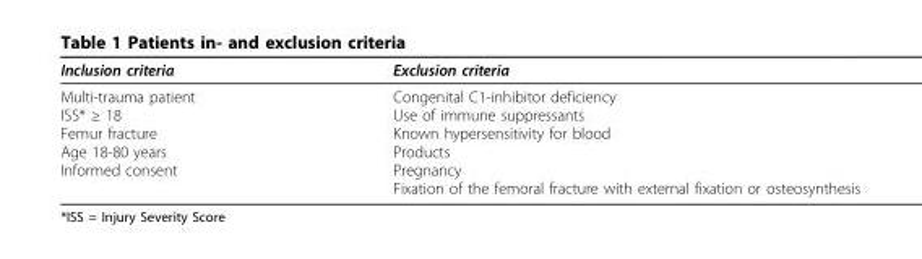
<table><thead><tr><td>Inclusion criteria</td><td>Exclusion criteria</td></tr></thead><tbody><tr><td>Multi-trauma patient ISS* ≥ 18 Femur fracture Age 18-80 years Informed consent</td><td>Congenital C1-inhibitor deficiency Use of immune suppressants Known hypersensitivity for blood Products Pregnancy Fixation of the femoral fracture with external fixation or osteosynthesis</td></tr></tbody></table>